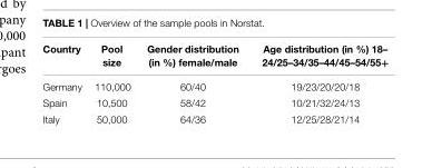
<table><thead><tr><td>Country</td><td>Pool size</td><td>Gender distribution (in %) female/male</td><td>Age distribution (in %) 18– 24/25–34/35–44/45–54/55+</td></tr></thead><tbody><tr><td>Germany</td><td>110,000</td><td>60/40</td><td>19/23/20/20/18</td></tr><tr><td>Spain</td><td>10,500</td><td>58/42</td><td>10/21/32/24/13</td></tr><tr><td>Italy</td><td>50,000</td><td>64/36</td><td>12/25/28/21/14</td></tr></tbody></table>